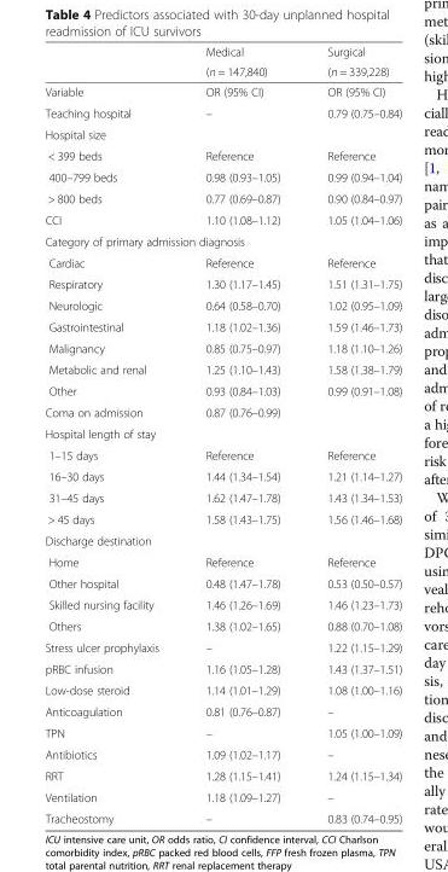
<table><thead><tr><td rowspan="2"></td><td rowspan="2">Medical (n = 147,840)</td><td rowspan="2">Surgical (n = 339,228)</td></tr><tr></tr></thead><tbody><tr><td>Variable</td><td>OR (95% CI)</td><td>OR (95% CI)</td></tr><tr><td>Teaching hospital</td><td>–</td><td>0.79 (0.75–0.84)</td></tr><tr><td colspan="3">Hospital size</td></tr><tr><td>&lt; 399 beds</td><td>Reference</td><td>Reference</td></tr><tr><td>400–799 beds</td><td>0.98 (0.93–1.05)</td><td>0.99 (0.94–1.04)</td></tr><tr><td>&gt; 800 beds</td><td>0.77 (0.69–0.87)</td><td>0.90 (0.84–0.97)</td></tr><tr><td>CCI</td><td>1.10 (1.08–1.12)</td><td>1.05 (1.04–1.06)</td></tr><tr><td colspan="3">Category of primary admission diagnosis</td></tr><tr><td>Cardiac</td><td>Reference</td><td>Reference</td></tr><tr><td>Respiratory</td><td>1.30 (1.17–1.45)</td><td>1.51 (1.31–1.75)</td></tr><tr><td>Neurologic</td><td>0.64 (0.58–0.70)</td><td>1.02 (0.95–1.09)</td></tr><tr><td>Gastrointestinal</td><td>1.18 (1.02–1.36)</td><td>1.59 (1.46–1.73)</td></tr><tr><td>Malignancy</td><td>0.85 (0.75–0.97)</td><td>1.18 (1.10–1.26)</td></tr><tr><td>Metabolic and renal</td><td>1.25 (1.10–1.43)</td><td>1.58 (1.38–1.79)</td></tr><tr><td>Other</td><td>0.93 (0.84–1.03)</td><td>0.99 (0.91–1.08)</td></tr><tr><td>Coma on admission</td><td>0.87 (0.76–0.99)</td><td></td></tr><tr><td colspan="3">Hospital length of stay</td></tr><tr><td>1–15 days</td><td>Reference</td><td>Reference</td></tr><tr><td>16–30 days</td><td>1.44 (1.34–1.54)</td><td>1.21 (1.14–1.27)</td></tr><tr><td>31–45 days</td><td>1.62 (1.47–1.78)</td><td>1.43 (1.34–1.53)</td></tr><tr><td>&gt; 45 days</td><td>1.58 (1.43–1.75)</td><td>1.56 (1.46–1.68)</td></tr><tr><td colspan="3">Discharge destination</td></tr><tr><td>Home</td><td>Reference</td><td>Reference</td></tr><tr><td>Other hospital</td><td>0.48 (1.47–1.78)</td><td>0.53 (0.50–0.57)</td></tr><tr><td>Skilled nursing facility</td><td>1.46 (1.26–1.69)</td><td>1.46 (1.23–1.73)</td></tr><tr><td>Others</td><td>1.38 (1.02–1.65)</td><td>0.88 (0.70–1.08)</td></tr><tr><td>Stress ulcer prophylaxis</td><td>–</td><td>1.22 (1.15–1.29)</td></tr><tr><td>pRBC infusion</td><td>1.16 (1.05–1.28)</td><td>1.43 (1.37–1.51)</td></tr><tr><td>Low-dose steroid</td><td>1.14 (1.01–1.29)</td><td>1.08 (1.00–1.16)</td></tr><tr><td>Anticoagulation</td><td>0.81 (0.76–0.87)</td><td>–</td></tr><tr><td>TPN</td><td>–</td><td>1.05 (1.00–1.09)</td></tr><tr><td>Antibiotics</td><td>1.09 (1.02–1.17)</td><td>–</td></tr><tr><td>RRT</td><td>1.28 (1.15–1.41)</td><td>1.24 (1.15–1.34)</td></tr><tr><td>Ventilation</td><td>1.18 (1.09–1.27)</td><td>–</td></tr><tr><td>Tracheostomy</td><td>–</td><td>0.83 (0.74–0.95)</td></tr></tbody></table>